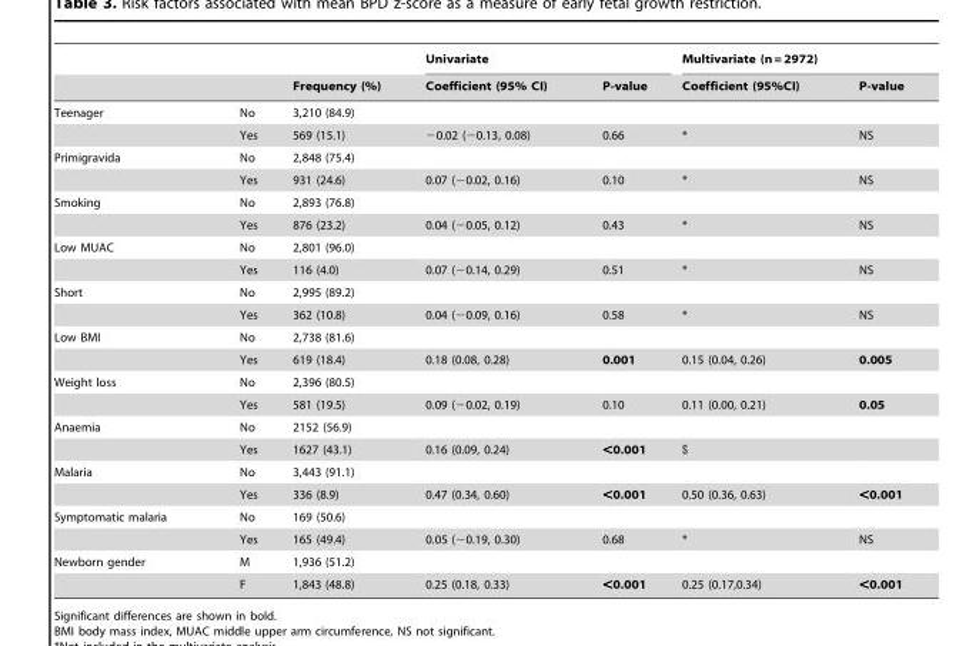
<table><thead><tr><td rowspan="2"></td><td rowspan="2"></td><td rowspan="2">Frequency (%)</td><td colspan="2">Univariate</td><td colspan="2">Multivariate (n = 2972)</td></tr><tr><td>Coefficient (95% CI)</td><td>P-value</td><td>Coefficient (95%CI)</td><td>P-value</td></tr></thead><tbody><tr><td rowspan="2">Teenager</td><td>No</td><td>3,210 (84.9)</td><td></td><td></td><td></td><td></td></tr><tr><td>Yes</td><td>569 (15.1)</td><td>−0.02 (−0.13, 0.08)</td><td>0.66</td><td>*</td><td>NS</td></tr><tr><td rowspan="2">Primigravida</td><td>No</td><td>2,848 (75.4)</td><td></td><td></td><td></td><td></td></tr><tr><td>Yes</td><td>931 (24.6)</td><td>0.07 (−0.02, 0.16)</td><td>0.10</td><td>*</td><td>NS</td></tr><tr><td rowspan="2">Smoking</td><td>No</td><td>2,893 (76.8)</td><td></td><td></td><td></td><td></td></tr><tr><td>Yes</td><td>876 (23.2)</td><td>0.04 (−0.05, 0.12)</td><td>0.43</td><td>*</td><td>NS</td></tr><tr><td rowspan="2">Low MUAC</td><td>No</td><td>2,801 (96.0)</td><td></td><td></td><td></td><td></td></tr><tr><td>Yes</td><td>116 (4.0)</td><td>0.07 (−0.14, 0.29)</td><td>0.51</td><td>*</td><td>NS</td></tr><tr><td rowspan="2">Short</td><td>No</td><td>2,995 (89.2)</td><td></td><td></td><td></td><td></td></tr><tr><td>Yes</td><td>362 (10.8)</td><td>0.04 (−0.09, 0.16)</td><td>0.58</td><td>*</td><td>NS</td></tr><tr><td rowspan="2">Low BMI</td><td>No</td><td>2,738 (81.6)</td><td></td><td></td><td></td><td></td></tr><tr><td>Yes</td><td>619 (18.4)</td><td>0.18 (0.08, 0.28)</td><td>0.001</td><td>0.15 (0.04, 0.26)</td><td>0.005</td></tr><tr><td rowspan="2">Weight loss</td><td>No</td><td>2,396 (80.5)</td><td></td><td></td><td></td><td></td></tr><tr><td>Yes</td><td>581 (19.5)</td><td>0.09 (−0.02, 0.19)</td><td>0.10</td><td>0.11 (0.00, 0.21)</td><td>0.05</td></tr><tr><td rowspan="2">Anaemia</td><td>No</td><td>2152 (56.9)</td><td></td><td></td><td></td><td></td></tr><tr><td>Yes</td><td>1627 (43.1)</td><td>0.16 (0.09, 0.24)</td><td>&lt;0.001</td><td>$</td><td></td></tr><tr><td rowspan="2">Malaria</td><td>No</td><td>3,443 (91.1)</td><td></td><td></td><td></td><td></td></tr><tr><td>Yes</td><td>336 (8.9)</td><td>0.47 (0.34, 0.60)</td><td>&lt;0.001</td><td>0.50 (0.36, 0.63)</td><td>&lt;0.001</td></tr><tr><td rowspan="2">Symptomatic malaria</td><td>No</td><td>169 (50.6)</td><td></td><td></td><td></td><td></td></tr><tr><td>Yes</td><td>165 (49.4)</td><td>0.05 (−0.19, 0.30)</td><td>0.68</td><td>*</td><td>NS</td></tr><tr><td rowspan="2">Newborn gender</td><td>M</td><td>1,936 (51.2)</td><td></td><td></td><td></td><td></td></tr><tr><td>F</td><td>1,843 (48.8)</td><td>0.25 (0.18, 0.33)</td><td>&lt;0.001</td><td>0.25 (0.17,0.34)</td><td>&lt;0.001</td></tr></tbody></table>